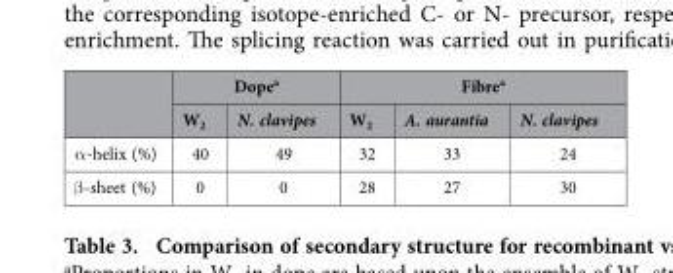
<table><thead><tr><td rowspan="2"></td><td colspan="2">Dope<sup>a</sup></td><td colspan="3">Fibre<sup>a</sup></td></tr><tr><td>W<sub>2</sub></td><td>N. clavipes</td><td>W<sub>2</sub></td><td>A. aurantia</td><td>N. clavipes</td></tr></thead><tbody><tr><td>α -helix (%)</td><td>40</td><td>49</td><td>32</td><td>33</td><td>24</td></tr><tr><td>β -sheet (%)</td><td>0</td><td>0</td><td>28</td><td>27</td><td>30</td></tr></tbody></table>